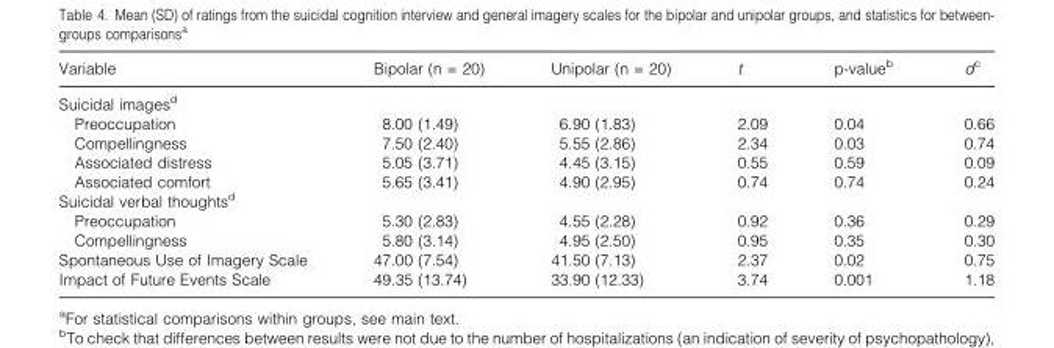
<table><thead><tr><td>Variable</td><td>Bipolar (n = 20)</td><td>Unipolar (n = 20)</td><td>t</td><td>p-value<sup>b</sup></td><td>d<sup>c</sup></td></tr></thead><tbody><tr><td colspan="6">Suicidal images<sup>d</sup></td></tr><tr><td>Preoccupation</td><td>8.00 (1.49)</td><td>6.90 (1.83)</td><td>2.09</td><td>0.04</td><td>0.66</td></tr><tr><td>Compellingness</td><td>7.50 (2.40)</td><td>5.55 (2.86)</td><td>2.34</td><td>0.03</td><td>0.74</td></tr><tr><td>Associated distress</td><td>5.05 (3.71)</td><td>4.45 (3.15)</td><td>0.55</td><td>0.59</td><td>0.09</td></tr><tr><td>Associated comfort</td><td>5.65 (3.41)</td><td>4.90 (2.95)</td><td>0.74</td><td>0.74</td><td>0.24</td></tr><tr><td colspan="6">Suicidal verbal thoughts<sup>d</sup></td></tr><tr><td>Preoccupation</td><td>5.30 (2.83)</td><td>4.55 (2.28)</td><td>0.92</td><td>0.36</td><td>0.29</td></tr><tr><td>Compellingness</td><td>5.80 (3.14)</td><td>4.95 (2.50)</td><td>0.95</td><td>0.35</td><td>0.30</td></tr><tr><td>Spontaneous Use of Imagery Scale</td><td>47.00 (7.54)</td><td>41.50 (7.13)</td><td>2.37</td><td>0.02</td><td>0.75</td></tr><tr><td>Impact of Future Events Scale</td><td>49.35 (13.74)</td><td>33.90 (12.33)</td><td>3.74</td><td>0.001</td><td>1.18</td></tr></tbody></table>